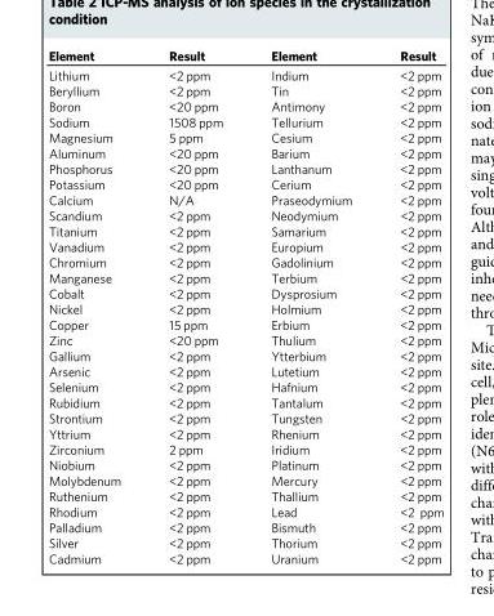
<table><thead><tr><td>Element</td><td>Result</td><td>Element</td><td>Result</td></tr></thead><tbody><tr><td>Lithium</td><td>&lt;2 ppm</td><td>Indium</td><td>&lt;2 ppm</td></tr><tr><td>Beryllium</td><td>&lt;2 ppm</td><td>Tin</td><td>&lt;2 ppm</td></tr><tr><td>Boron</td><td>&lt;20 ppm</td><td>Antimony</td><td>&lt;2 ppm</td></tr><tr><td>Sodium</td><td>1508 ppm</td><td>Tellurium</td><td>&lt;2 ppm</td></tr><tr><td>Magnesium</td><td>5 ppm</td><td>Cesium</td><td>&lt;2 ppm</td></tr><tr><td>Aluminum</td><td>&lt;20 ppm</td><td>Barium</td><td>&lt;2 ppm</td></tr><tr><td>Phosphorus</td><td>&lt;20 ppm</td><td>Lanthanum</td><td>&lt;2 ppm</td></tr><tr><td>Potassium</td><td>&lt;20 ppm</td><td>Cerium</td><td>&lt;2 ppm</td></tr><tr><td>Calcium</td><td>N/A</td><td>Praseodymium</td><td>&lt;2 ppm</td></tr><tr><td>Scandium</td><td>&lt;2 ppm</td><td>Neodymium</td><td>&lt;2 ppm</td></tr><tr><td>Titanium</td><td>&lt;2 ppm</td><td>Samarium</td><td>&lt;2 ppm</td></tr><tr><td>Vanadium</td><td>&lt;2 ppm</td><td>Europium</td><td>&lt;2 ppm</td></tr><tr><td>Chromium</td><td>&lt;2 ppm</td><td>Gadolinium</td><td>&lt;2 ppm</td></tr><tr><td>Manganese</td><td>&lt;2 ppm</td><td>Terbium</td><td>&lt;2 ppm</td></tr><tr><td>Cobalt</td><td>&lt;2 ppm</td><td>Dysprosium</td><td>&lt;2 ppm</td></tr><tr><td>Nickel</td><td>&lt;2 ppm</td><td>Holmium</td><td>&lt;2 ppm</td></tr><tr><td>Copper</td><td>15 ppm</td><td>Erbium</td><td>&lt;2 ppm</td></tr><tr><td>Zinc</td><td>&lt;20 ppm</td><td>Thulium</td><td>&lt;2 ppm</td></tr><tr><td>Gallium</td><td>&lt;2 ppm</td><td>Ytterbium</td><td>&lt;2 ppm</td></tr><tr><td>Arsenic</td><td>&lt;2 ppm</td><td>Lutetium</td><td>&lt;2 ppm</td></tr><tr><td>Selenium</td><td>&lt;2 ppm</td><td>Hafnium</td><td>&lt;2 ppm</td></tr><tr><td>Rubidium</td><td>&lt;2 ppm</td><td>Tantalum</td><td>&lt;2 ppm</td></tr><tr><td>Strontium</td><td>&lt;2 ppm</td><td>Tungsten</td><td>&lt;2 ppm</td></tr><tr><td>Yttrium</td><td>&lt;2 ppm</td><td>Rhenium</td><td>&lt;2 ppm</td></tr><tr><td>Zirconium</td><td>2 ppm</td><td>Iridium</td><td>&lt;2 ppm</td></tr><tr><td>Niobium</td><td>&lt;2 ppm</td><td>Platinum</td><td>&lt;2 ppm</td></tr><tr><td>Molybdenum</td><td>&lt;2 ppm</td><td>Mercury</td><td>&lt;2 ppm</td></tr><tr><td>Ruthenium</td><td>&lt;2 ppm</td><td>Thallium</td><td>&lt;2 ppm</td></tr><tr><td>Rhodium</td><td>&lt;2 ppm</td><td>Lead</td><td>&lt;2 ppm</td></tr><tr><td>Palladium</td><td>&lt;2 ppm</td><td>Bismuth</td><td>&lt;2 ppm</td></tr><tr><td>Silver</td><td>&lt;2 ppm</td><td>Thorium</td><td>&lt;2 ppm</td></tr><tr><td>Cadmium</td><td>&lt;2 ppm</td><td>Uranium</td><td>&lt;2 ppm</td></tr></tbody></table>